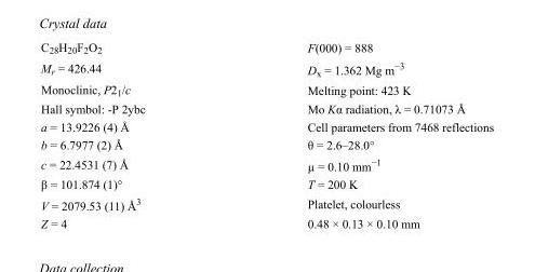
<table><tbody><tr><td>C<sub>28</sub>H<sub>20</sub>F<sub>2</sub>O<sub>2</sub></td><td>F(000) = 888</td></tr><tr><td>M<sub>r</sub> = 426.44</td><td>D<sub>x</sub> = 1.362 Mg m<sup>−3</sup></td></tr><tr><td>Monoclinic, P2<sub>1</sub>/c</td><td>Melting point: 423 K</td></tr><tr><td>Hall symbol: -P 2ybc</td><td>Mo Kα radiation, λ = 0.71073 Å</td></tr><tr><td>a = 13.9226 (4) Å</td><td>Cell parameters from 7468 reflections</td></tr><tr><td>b = 6.7977 (2) Å</td><td>θ = 2.6–28.0°</td></tr><tr><td>c = 22.4531 (7) Å</td><td>µ = 0.10 mm<sup>−1</sup></td></tr><tr><td>β = 101.874 (1)°</td><td>T = 200 K</td></tr><tr><td>V = 2079.53 (11) Å<sup>3</sup></td><td>Platelet, colourless</td></tr><tr><td>Z = 4</td><td>0.48 × 0.13 × 0.10 mm</td></tr></tbody></table>